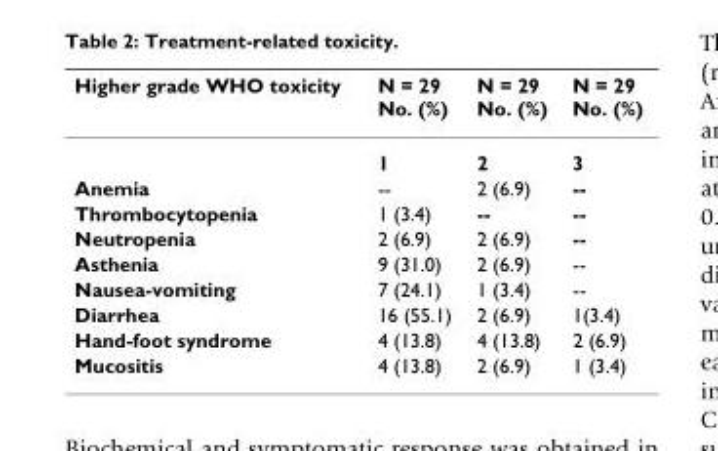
<table><thead><tr><td>Higher grade WHO toxicity</td><td>N = 29 No. (%)</td><td>N = 29 No. (%)</td><td>N = 29 No. (%)</td></tr></thead><tbody><tr><td></td><td>1</td><td>2</td><td>3</td></tr><tr><td>Anemia</td><td>--</td><td>2 (6.9)</td><td>--</td></tr><tr><td>Thrombocytopenia</td><td>1 (3.4)</td><td>--</td><td>--</td></tr><tr><td>Neutropenia</td><td>2 (6.9)</td><td>2 (6.9)</td><td>--</td></tr><tr><td>Asthenia</td><td>9 (31.0)</td><td>2 (6.9)</td><td>--</td></tr><tr><td>Nausea-vomiting</td><td>7 (24.1)</td><td>1 (3.4)</td><td>--</td></tr><tr><td>Diarrhea</td><td>16 (55.1)</td><td>2 (6.9)</td><td>1(3.4)</td></tr><tr><td>Hand-foot syndrome</td><td>4 (13.8)</td><td>4 (13.8)</td><td>2 (6.9)</td></tr><tr><td>Mucositis</td><td>4 (13.8)</td><td>2 (6.9)</td><td>1 (3.4)</td></tr></tbody></table>